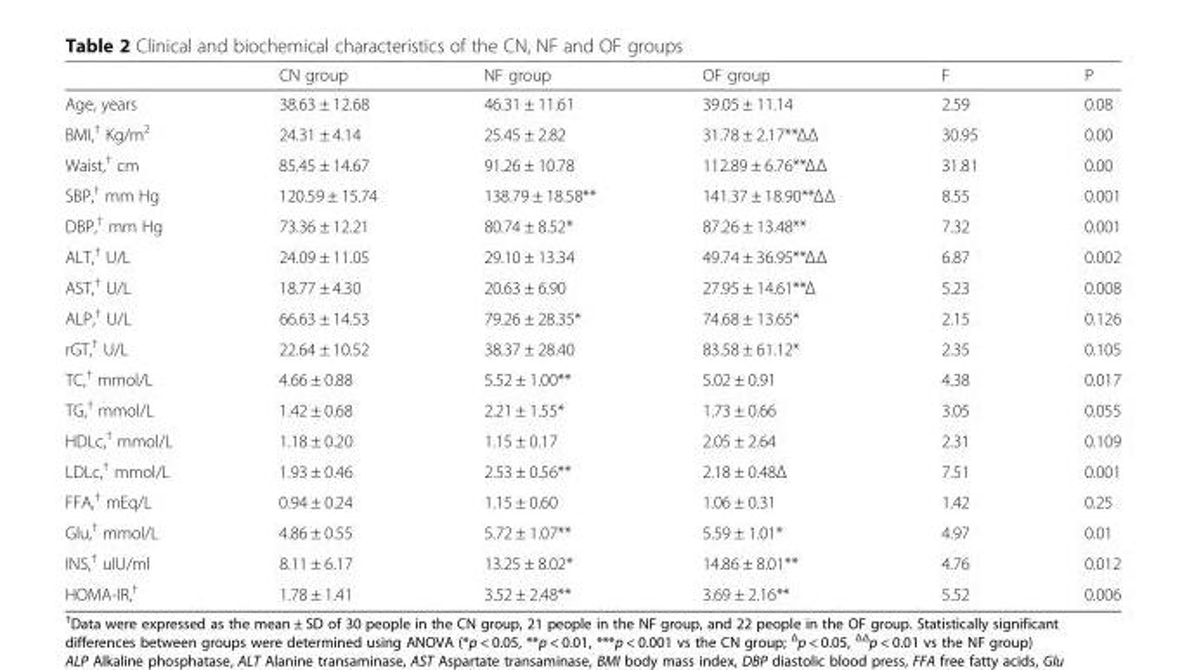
<table><thead><tr><td></td><td>CN group</td><td>NF group</td><td>OF group</td><td>F</td><td>P</td></tr></thead><tbody><tr><td>Age, years</td><td>38.63 ± 12.68</td><td>46.31 ± 11.61</td><td>39.05 ± 11.14</td><td>2.59</td><td>0.08</td></tr><tr><td>BMI,<sup>†</sup> Kg/m<sup>2</sup></td><td>24.31 ± 4.14</td><td>25.45 ± 2.82</td><td>31.78 ± 2.17**ΔΔ</td><td>30.95</td><td>0.00</td></tr><tr><td>Waist,<sup>†</sup> cm</td><td>85.45 ± 14.67</td><td>91.26 ± 10.78</td><td>112.89 ± 6.76**ΔΔ</td><td>31.81</td><td>0.00</td></tr><tr><td>SBP,<sup>†</sup> mm Hg</td><td>120.59 ± 15.74</td><td>138.79 ± 18.58**</td><td>141.37 ± 18.90**ΔΔ</td><td>8.55</td><td>0.001</td></tr><tr><td>DBP,<sup>†</sup> mm Hg</td><td>73.36 ± 12.21</td><td>80.74 ± 8.52*</td><td>87.26 ± 13.48**</td><td>7.32</td><td>0.001</td></tr><tr><td>ALT,<sup>†</sup> U/L</td><td>24.09 ± 11.05</td><td>29.10 ± 13.34</td><td>49.74 ± 36.95**ΔΔ</td><td>6.87</td><td>0.002</td></tr><tr><td>AST,<sup>†</sup> U/L</td><td>18.77 ± 4.30</td><td>20.63 ± 6.90</td><td>27.95 ± 14.61**Δ</td><td>5.23</td><td>0.008</td></tr><tr><td>ALP,<sup>†</sup> U/L</td><td>66.63 ± 14.53</td><td>79.26 ± 28.35*</td><td>74.68 ± 13.65*</td><td>2.15</td><td>0.126</td></tr><tr><td>rGT,<sup>†</sup> U/L</td><td>22.64 ± 10.52</td><td>38.37 ± 28.40</td><td>83.58 ± 61.12*</td><td>2.35</td><td>0.105</td></tr><tr><td>TC,<sup>†</sup> mmol/L</td><td>4.66 ± 0.88</td><td>5.52 ± 1.00**</td><td>5.02 ± 0.91</td><td>4.38</td><td>0.017</td></tr><tr><td>TG,<sup>†</sup> mmol/L</td><td>1.42 ± 0.68</td><td>2.21 ± 1.55*</td><td>1.73 ± 0.66</td><td>3.05</td><td>0.055</td></tr><tr><td>HDLc,<sup>†</sup> mmol/L</td><td>1.18 ± 0.20</td><td>1.15 ± 0.17</td><td>2.05 ± 2.64</td><td>2.31</td><td>0.109</td></tr><tr><td>LDLc,<sup>†</sup> mmol/L</td><td>1.93 ± 0.46</td><td>2.53 ± 0.56**</td><td>2.18 ± 0.48Δ</td><td>7.51</td><td>0.001</td></tr><tr><td>FFA,<sup>†</sup> mEq/L</td><td>0.94 ± 0.24</td><td>1.15 ± 0.60</td><td>1.06 ± 0.31</td><td>1.42</td><td>0.25</td></tr><tr><td>Glu,<sup>†</sup> mmol/L</td><td>4.86 ± 0.55</td><td>5.72 ± 1.07**</td><td>5.59 ± 1.01*</td><td>4.97</td><td>0.01</td></tr><tr><td>INS,<sup>†</sup> uIU/ml</td><td>8.11 ± 6.17</td><td>13.25 ± 8.02*</td><td>14.86 ± 8.01**</td><td>4.76</td><td>0.012</td></tr><tr><td>HOMA-IR,<sup>†</sup></td><td>1.78 ± 1.41</td><td>3.52 ± 2.48**</td><td>3.69 ± 2.16**</td><td>5.52</td><td>0.006</td></tr></tbody></table>